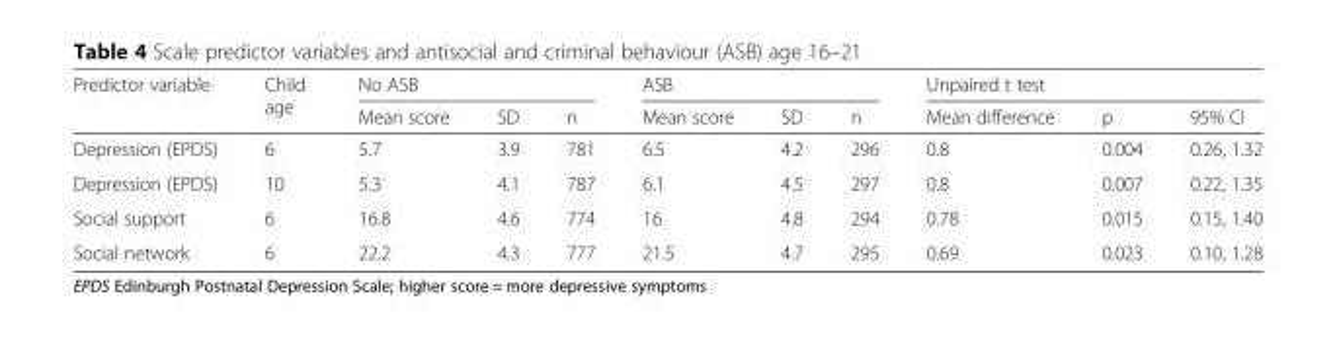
<table><thead><tr><td rowspan="2">Predictor variable</td><td rowspan="2">Child age</td><td colspan="3">No ASB</td><td colspan="3">ASB</td><td colspan="3">Unpaired t test</td></tr><tr><td>Mean score</td><td>SD</td><td>n</td><td>Mean score</td><td>SD</td><td>n</td><td>Mean difference</td><td>p</td><td>95% CI</td></tr></thead><tbody><tr><td>Depression (EPDS)</td><td>6</td><td>5.7</td><td>3.9</td><td>781</td><td>6.5</td><td>4.2</td><td>296</td><td>0.8</td><td>0.004</td><td>0.26, 1.32</td></tr><tr><td>Depression (EPDS)</td><td>10</td><td>5.3</td><td>4.1</td><td>787</td><td>6.1</td><td>4.5</td><td>297</td><td>0.8</td><td>0.007</td><td>0.22, 1.35</td></tr><tr><td>Social support</td><td>6</td><td>16.8</td><td>4.6</td><td>774</td><td>16</td><td>4.8</td><td>294</td><td>0.78</td><td>0.015</td><td>0.15, 1.40</td></tr><tr><td>Social network</td><td>6</td><td>22.2</td><td>4.3</td><td>777</td><td>21.5</td><td>4.7</td><td>295</td><td>0.69</td><td>0.023</td><td>0.10, 1.28</td></tr></tbody></table>